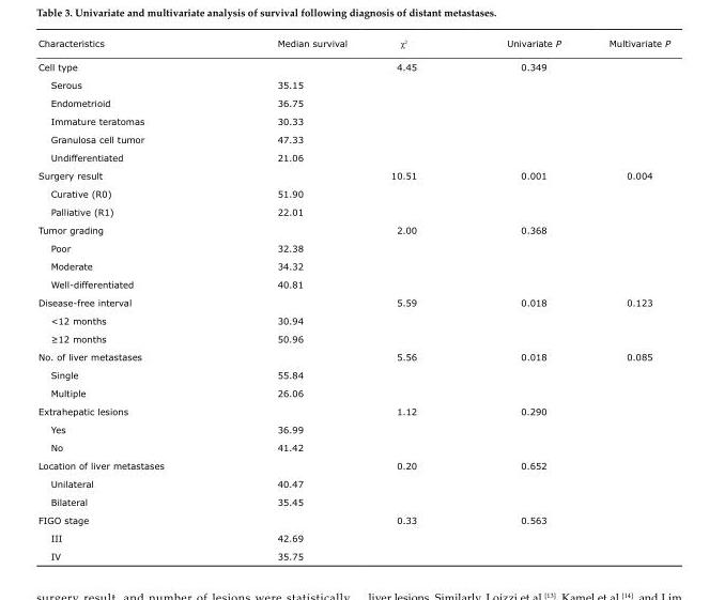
<table><thead><tr><td>Characteristics</td><td>Median survival</td><td>χ<sup>2</sup></td><td>Univariate P</td><td>Multivariate P</td></tr></thead><tbody><tr><td>Cell type</td><td></td><td>4.45</td><td>0.349</td><td></td></tr><tr><td>Serous</td><td>35.15</td><td></td><td></td><td></td></tr><tr><td>Endometrioid</td><td>36.75</td><td></td><td></td><td></td></tr><tr><td>Immature teratomas</td><td>30.33</td><td></td><td></td><td></td></tr><tr><td>Granulosa cell tumor</td><td>47.33</td><td></td><td></td><td></td></tr><tr><td>Undifferentiated</td><td>21.06</td><td></td><td></td><td></td></tr><tr><td>Surgery result</td><td></td><td>10.51</td><td>0.001</td><td>0.004</td></tr><tr><td>Curative (R0)</td><td>51.90</td><td></td><td></td><td></td></tr><tr><td>Palliative (R1)</td><td>22.01</td><td></td><td></td><td></td></tr><tr><td>Tumor grading</td><td></td><td>2.00</td><td>0.368</td><td></td></tr><tr><td>Poor</td><td>32.38</td><td></td><td></td><td></td></tr><tr><td>Moderate</td><td>34.32</td><td></td><td></td><td></td></tr><tr><td>Well-differentiated</td><td>40.81</td><td></td><td></td><td></td></tr><tr><td>Disease-free interval</td><td></td><td>5.59</td><td>0.018</td><td>0.123</td></tr><tr><td>&lt;12 months</td><td>30.94</td><td></td><td></td><td></td></tr><tr><td>≥12 months</td><td>50.96</td><td></td><td></td><td></td></tr><tr><td>No. of liver metastases</td><td></td><td>5.56</td><td>0.018</td><td>0.085</td></tr><tr><td>Single</td><td>55.84</td><td></td><td></td><td></td></tr><tr><td>Multiple</td><td>26.06</td><td></td><td></td><td></td></tr><tr><td>Extrahepatic lesions</td><td></td><td>1.12</td><td>0.290</td><td></td></tr><tr><td>Yes</td><td>36.99</td><td></td><td></td><td></td></tr><tr><td>No</td><td>41.42</td><td></td><td></td><td></td></tr><tr><td>Location of liver metastases</td><td></td><td>0.20</td><td>0.652</td><td></td></tr><tr><td>Unilateral</td><td>40.47</td><td></td><td></td><td></td></tr><tr><td>Bilateral</td><td>35.45</td><td></td><td></td><td></td></tr><tr><td>FIGO stage</td><td></td><td>0.33</td><td>0.563</td><td></td></tr><tr><td>III</td><td>42.69</td><td></td><td></td><td></td></tr><tr><td>IV</td><td>35.75</td><td></td><td></td><td></td></tr></tbody></table>